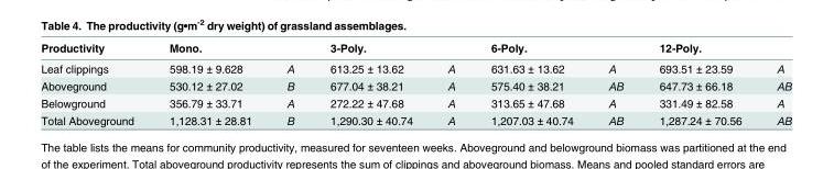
<table><thead><tr><td rowspan="2">Productivity Leaf clippings</td><td colspan="2">Mono.</td><td colspan="2">3-Poly.</td><td colspan="2">6-Poly.</td><td colspan="2">12-Poly.</td></tr><tr><td>598.19 ± 9.628</td><td>A</td><td>613.25 ± 13.62</td><td>A</td><td>631.63 ± 13.62</td><td>A</td><td>693.51 ± 23.59</td><td>A</td></tr></thead><tbody><tr><td>Aboveground</td><td>530.12 ± 27.02</td><td>B</td><td>677.04 ± 38.21</td><td>A</td><td>575.40 ± 38.21</td><td>AB</td><td>647.73 ± 66.18</td><td>AB</td></tr><tr><td>Belowground</td><td>356.79 ± 33.71</td><td>A</td><td>272.22 ± 47.68</td><td>A</td><td>313.65 ± 47.68</td><td>A</td><td>331.49 ± 82.58</td><td>A</td></tr><tr><td>Total Aboveground</td><td>1,128.31 ± 28.81</td><td>B</td><td>1,290.30 ± 40.74</td><td>A</td><td>1,207.03 ± 40.74</td><td>AB</td><td>1,287.24 ± 70.56</td><td>AB</td></tr></tbody></table>